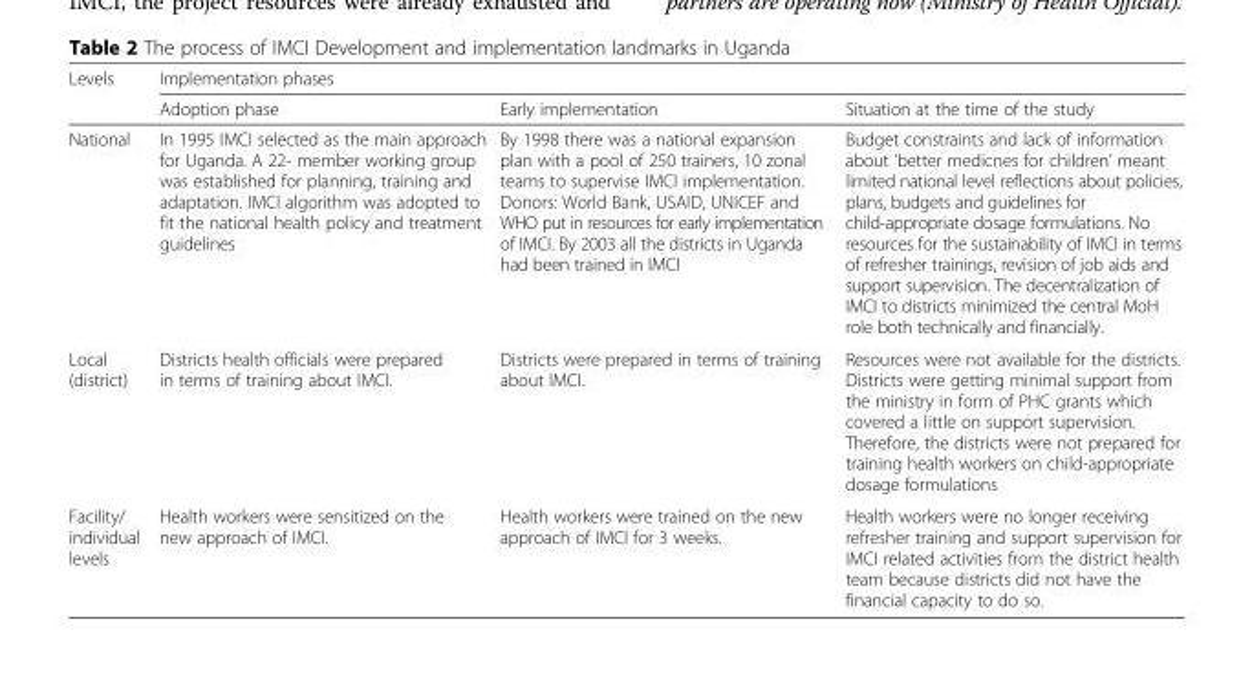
<table><thead><tr><td rowspan="2">Levels</td><td colspan="3">Implementation phases</td></tr><tr><td>Adoption phase</td><td>Early implementation</td><td>Situation at the time of the study</td></tr></thead><tbody><tr><td>National</td><td>In 1995 IMCI selected as the main approach for Uganda. A 22- member working group was established for planning, training and adaptation. IMCI algorithm was adopted to fit the national health policy and treatment guidelines</td><td>By 1998 there was a national expansion plan with a pool of 250 trainers, 10 zonal teams to supervise IMCI implementation. Donors: World Bank, USAID, UNICEF and WHO put in resources for early implementation of IMCI. By 2003 all the districts in Uganda had been trained in IMCI</td><td>Budget constraints and lack of information about ‘better medicnes for children’ meant limited national level reflections about policies, plans, budgets and guidelines for child-appropriate dosage formulations. No resources for the sustainability of IMCI in terms of refresher trainings, revision of job aids and support supervision. The decentralization of IMCI to districts minimized the central MoH role both technically and financially.</td></tr><tr><td>Local (district)</td><td>Districts health officials were prepared in terms of training about IMCI.</td><td>Districts were prepared in terms of training about IMCI.</td><td>Resources were not available for the districts. Districts were getting minimal support from the ministry in form of PHC grants which covered a little on support supervision. Therefore, the districts were not prepared for training health workers on child-appropriate dosage formulations</td></tr><tr><td>Facility/ individual levels</td><td>Health workers were sensitized on the new approach of IMCI.</td><td>Health workers were trained on the new approach of IMCI for 3 weeks.</td><td>Health workers were no longer receiving refresher training and support supervision for IMCI related activities from the district health team because districts did not have the financial capacity to do so.</td></tr></tbody></table>